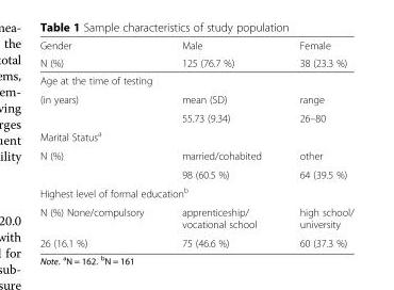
<table><thead><tr><td rowspan="2">Gender N (%)</td><td rowspan="2">Male 125 (76.7 %)</td><td rowspan="2">Female 38 (23.3 %)</td></tr><tr></tr></thead><tbody><tr><td colspan="3">Age at the time of testing</td></tr><tr><td rowspan="2">(in years)</td><td>mean (SD)</td><td>range</td></tr><tr><td>55.73 (9.34)</td><td>26–80</td></tr><tr><td colspan="3">Marital Status<sup>a</sup></td></tr><tr><td rowspan="2">N (%)</td><td>married/cohabited</td><td>other</td></tr><tr><td>98 (60.5 %)</td><td>64 (39.5 %)</td></tr><tr><td colspan="3">Highest level of formal education<sup>b</sup></td></tr><tr><td>N (%) None/compulsory</td><td>apprenticeship/ vocational school</td><td>high school/ university</td></tr><tr><td>26 (16.1 %)</td><td>75 (46.6 %)</td><td>60 (37.3 %)</td></tr></tbody></table>